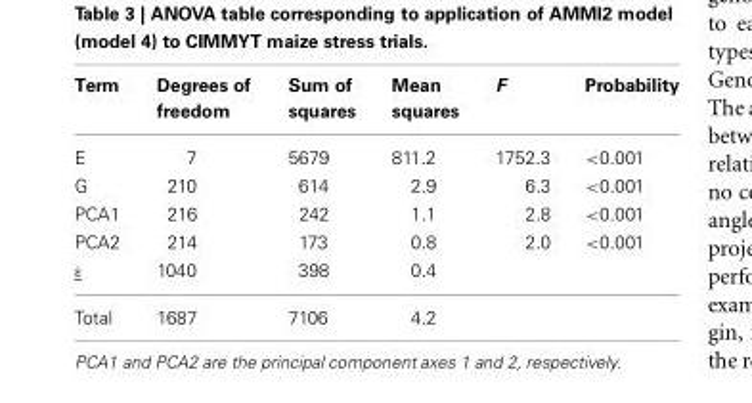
<table><thead><tr><td>Term</td><td>Degrees of freedom</td><td>Sum of squares</td><td>Mean squares</td><td>F</td><td>Probability</td></tr></thead><tbody><tr><td>E</td><td>7</td><td>5679</td><td>811.2</td><td>1752.3</td><td>&lt;0.001</td></tr><tr><td>G</td><td>210</td><td>614</td><td>2.9</td><td>6.3</td><td>&lt;0.001</td></tr><tr><td>PCA1</td><td>216</td><td>242</td><td>1.1</td><td>2.8</td><td>&lt;0.001</td></tr><tr><td>PCA2</td><td>214</td><td>173</td><td>0.8</td><td>2.0</td><td>&lt;0.001</td></tr><tr><td>ε</td><td>1040</td><td>398</td><td>0.4</td><td></td><td></td></tr><tr><td>Total</td><td>1687</td><td>7106</td><td>4.2</td><td></td><td></td></tr></tbody></table>